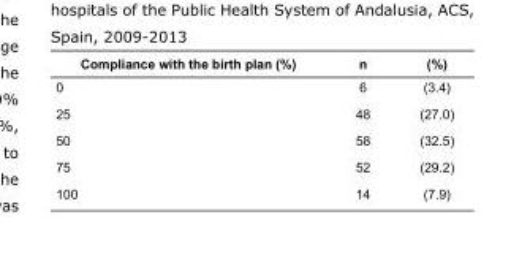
<table><tbody><tr><td>Compliance with the birth plan (%)</td><td>n</td><td>(%)</td></tr><tr><td>0</td><td>6</td><td>(3.4)</td></tr><tr><td>25</td><td>48</td><td>(27.0)</td></tr><tr><td>50</td><td>58</td><td>(32.5)</td></tr><tr><td>75</td><td>52</td><td>(29.2)</td></tr><tr><td>100</td><td>14</td><td>(7.9)</td></tr></tbody></table>